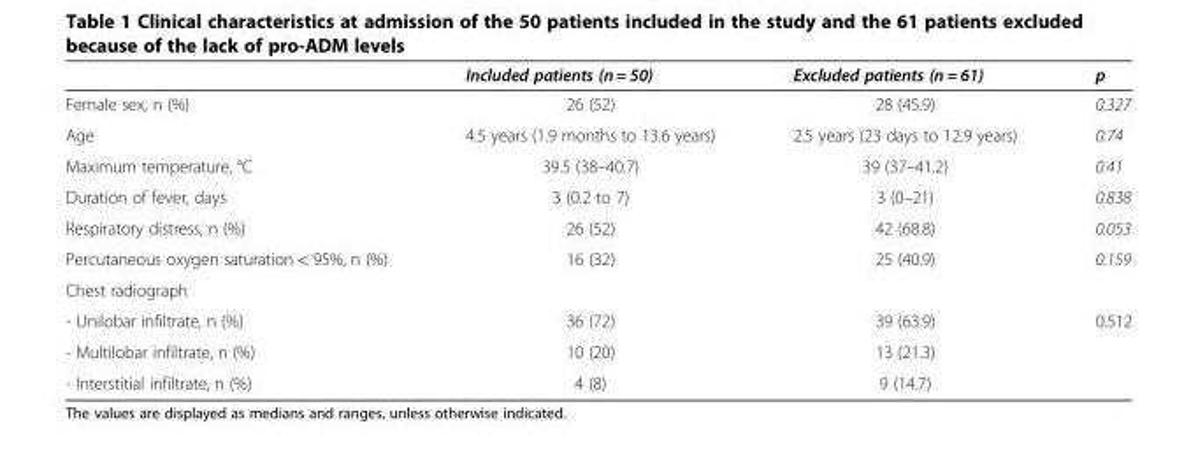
<table><thead><tr><td></td><td>Included patients (n = 50)</td><td>Excluded patients (n = 61)</td><td>p</td></tr></thead><tbody><tr><td>Female sex, n (%)</td><td>26 (52)</td><td>28 (45.9)</td><td>0.327</td></tr><tr><td>Age</td><td>4.5 years (1.9 months to 13.6 years)</td><td>2.5 years (23 days to 12.9 years)</td><td>0.74</td></tr><tr><td>Maximum temperature, °C</td><td>39.5 (38–40.7)</td><td>39 (37–41.2)</td><td>0.41</td></tr><tr><td>Duration of fever, days</td><td>3 (0.2 to 7)</td><td>3 (0–21)</td><td>0.838</td></tr><tr><td>Respiratory distress, n (%)</td><td>26 (52)</td><td>42 (68.8)</td><td>0.053</td></tr><tr><td>Percutaneous oxygen saturation &lt; 95%, n (%)</td><td>16 (32)</td><td>25 (40.9)</td><td>0.159</td></tr><tr><td colspan="4">Chest radiograph</td></tr><tr><td>- Unilobar infiltrate, n (%)</td><td>36 (72)</td><td>39 (63.9)</td><td>0.512</td></tr><tr><td>- Multilobar infiltrate, n (%)</td><td>10 (20)</td><td>13 (21.3)</td><td></td></tr><tr><td>- Interstitial infiltrate, n (%)</td><td>4 (8)</td><td>9 (14.7)</td><td></td></tr></tbody></table>